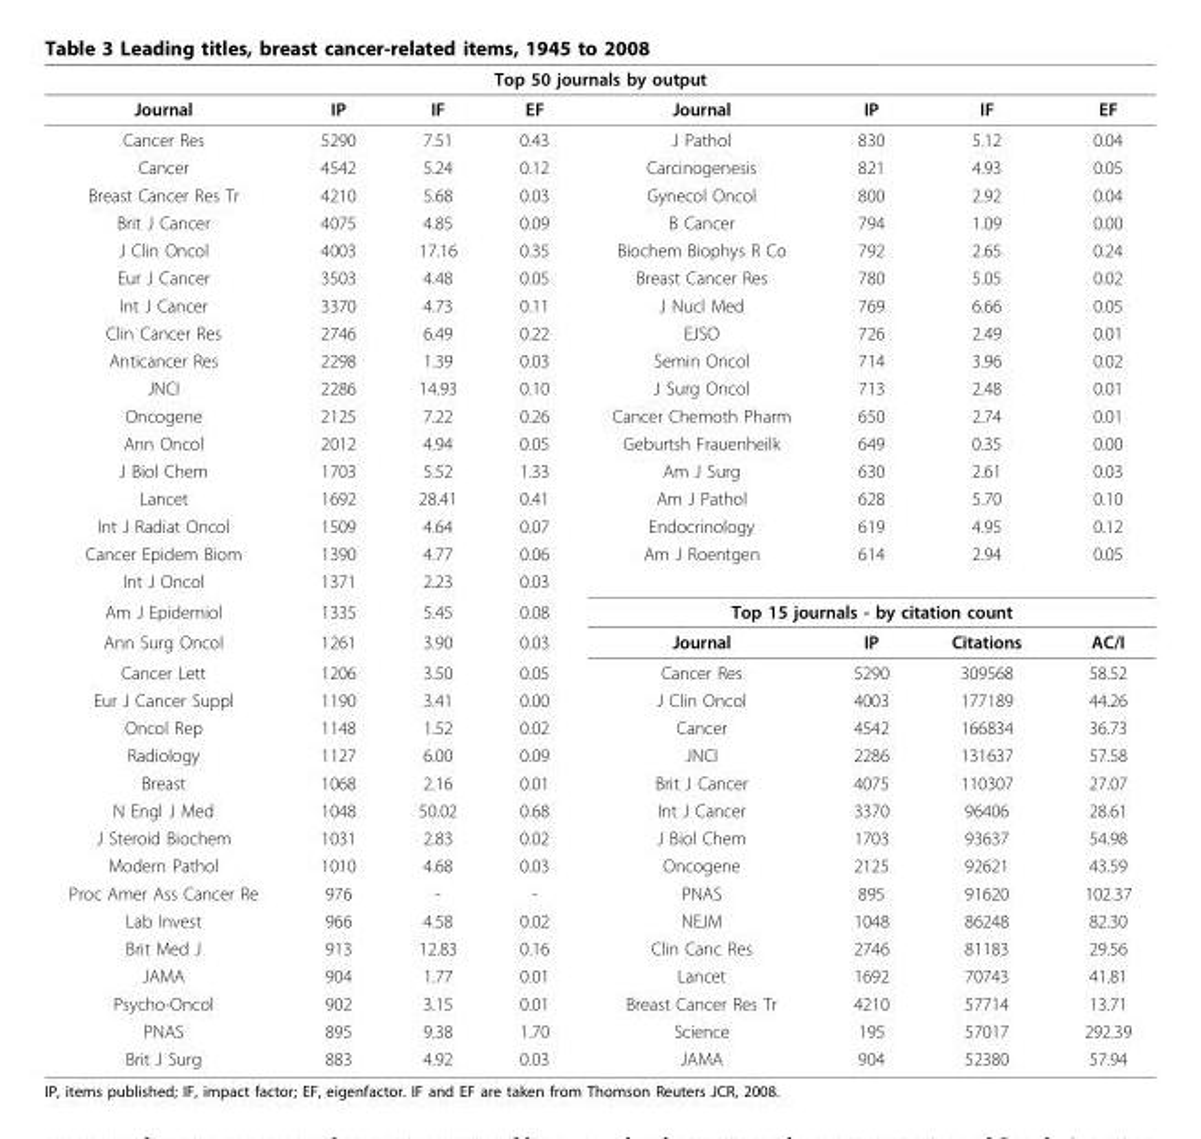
<table><thead><tr><td colspan="8">Top 50 journals by output</td></tr><tr><td>Journal</td><td>IP</td><td>IF</td><td>EF</td><td>Journal</td><td>IP</td><td>IF</td><td>EF</td></tr></thead><tbody><tr><td>Cancer Res</td><td>5290</td><td>7.51</td><td>0.43</td><td>J Pathol</td><td>830</td><td>5.12</td><td>0.04</td></tr><tr><td>Cancer</td><td>4542</td><td>5.24</td><td>0.12</td><td>Carcinogenesis</td><td>821</td><td>4.93</td><td>0.05</td></tr><tr><td>Breast Cancer Res Tr</td><td>4210</td><td>5.68</td><td>0.03</td><td>Gynecol Oncol</td><td>800</td><td>2.92</td><td>0.04</td></tr><tr><td>Brit J Cancer</td><td>4075</td><td>4.85</td><td>0.09</td><td>B Cancer</td><td>794</td><td>1.09</td><td>0.00</td></tr><tr><td>J Clin Oncol</td><td>4003</td><td>17.16</td><td>0.35</td><td>Biochem Biophys R Co</td><td>792</td><td>2.65</td><td>0.24</td></tr><tr><td>Eur J Cancer</td><td>3503</td><td>4.48</td><td>0.05</td><td>Breast Cancer Res</td><td>780</td><td>5.05</td><td>0.02</td></tr><tr><td>Int J Cancer</td><td>3370</td><td>4.73</td><td>0.11</td><td>J Nucl Med</td><td>769</td><td>6.66</td><td>0.05</td></tr><tr><td>Clin Cancer Res</td><td>2746</td><td>6.49</td><td>0.22</td><td>EJSO</td><td>726</td><td>2.49</td><td>0.01</td></tr><tr><td>Anticancer Res</td><td>2298</td><td>1.39</td><td>0.03</td><td>Semin Oncol</td><td>714</td><td>3.96</td><td>0.02</td></tr><tr><td>JNCI</td><td>2286</td><td>14.93</td><td>0.10</td><td>J Surg Oncol</td><td>713</td><td>2.48</td><td>0.01</td></tr><tr><td>Oncogene</td><td>2125</td><td>7.22</td><td>0.26</td><td>Cancer Chemoth Pharm</td><td>650</td><td>2.74</td><td>0.01</td></tr><tr><td>Ann Oncol</td><td>2012</td><td>4.94</td><td>0.05</td><td>Geburtsh Frauenheilk</td><td>649</td><td>0.35</td><td>0.00</td></tr><tr><td>J Biol Chem</td><td>1703</td><td>5.52</td><td>1.33</td><td>Am J Surg</td><td>630</td><td>2.61</td><td>0.03</td></tr><tr><td>Lancet</td><td>1692</td><td>28.41</td><td>0.41</td><td>Am J Pathol</td><td>628</td><td>5.70</td><td>0.10</td></tr><tr><td>Int J Radiat Oncol</td><td>1509</td><td>4.64</td><td>0.07</td><td>Endocrinology</td><td>619</td><td>4.95</td><td>0.12</td></tr><tr><td>Cancer Epidem Biom</td><td>1390</td><td>4.77</td><td>0.06</td><td>Am J Roentgen</td><td>614</td><td>2.94</td><td>0.05</td></tr><tr><td>Int J Oncol</td><td>1371</td><td>2.23</td><td>0.03</td><td></td><td></td><td></td><td></td></tr><tr><td>Am J Epidemiol</td><td>1335</td><td>5.45</td><td>0.08</td><td colspan="4">Top 15 journals - by citation count</td></tr><tr><td>Ann Surg Oncol</td><td>1261</td><td>3.90</td><td>0.03</td><td>Journal</td><td>IP</td><td>Citations</td><td>AC/I</td></tr><tr><td>Cancer Lett</td><td>1206</td><td>3.50</td><td>0.05</td><td>Cancer Res</td><td>5290</td><td>309568</td><td>58.52</td></tr><tr><td>Eur J Cancer Suppl</td><td>1190</td><td>3.41</td><td>0.00</td><td>J Clin Oncol</td><td>4003</td><td>177189</td><td>44.26</td></tr><tr><td>Oncol Rep</td><td>1148</td><td>1.52</td><td>0.02</td><td>Cancer</td><td>4542</td><td>166834</td><td>36.73</td></tr><tr><td>Radiology</td><td>1127</td><td>6.00</td><td>0.09</td><td>JNCI</td><td>2286</td><td>131637</td><td>57.58</td></tr><tr><td>Breast</td><td>1068</td><td>2.16</td><td>0.01</td><td>Brit J Cancer</td><td>4075</td><td>110307</td><td>27.07</td></tr><tr><td>N Engl J Med</td><td>1048</td><td>50.02</td><td>0.68</td><td>Int J Cancer</td><td>3370</td><td>96406</td><td>28.61</td></tr><tr><td>J Steroid Biochem</td><td>1031</td><td>2.83</td><td>0.02</td><td>J Biol Chem</td><td>1703</td><td>93637</td><td>54.98</td></tr><tr><td>Modern Pathol</td><td>1010</td><td>4.68</td><td>0.03</td><td>Oncogene</td><td>2125</td><td>92621</td><td>43.59</td></tr><tr><td>Proc Amer Ass Cancer Re</td><td>976</td><td>-</td><td>-</td><td>PNAS</td><td>895</td><td>91620</td><td>102.37</td></tr><tr><td>Lab Invest</td><td>966</td><td>4.58</td><td>0.02</td><td>NEJM</td><td>1048</td><td>86248</td><td>82.30</td></tr><tr><td>Brit Med J</td><td>913</td><td>12.83</td><td>0.16</td><td>Clin Canc Res</td><td>2746</td><td>81183</td><td>29.56</td></tr><tr><td>JAMA</td><td>904</td><td>1.77</td><td>0.01</td><td>Lancet</td><td>1692</td><td>70743</td><td>41.81</td></tr><tr><td>Psycho-Oncol</td><td>902</td><td>3.15</td><td>0.01</td><td>Breast Cancer Res Tr</td><td>4210</td><td>57714</td><td>13.71</td></tr><tr><td>PNAS</td><td>895</td><td>9.38</td><td>1.70</td><td>Science</td><td>195</td><td>57017</td><td>292.39</td></tr><tr><td>Brit J Surg</td><td>883</td><td>4.92</td><td>0.03</td><td>JAMA</td><td>904</td><td>52380</td><td>57.94</td></tr></tbody></table>